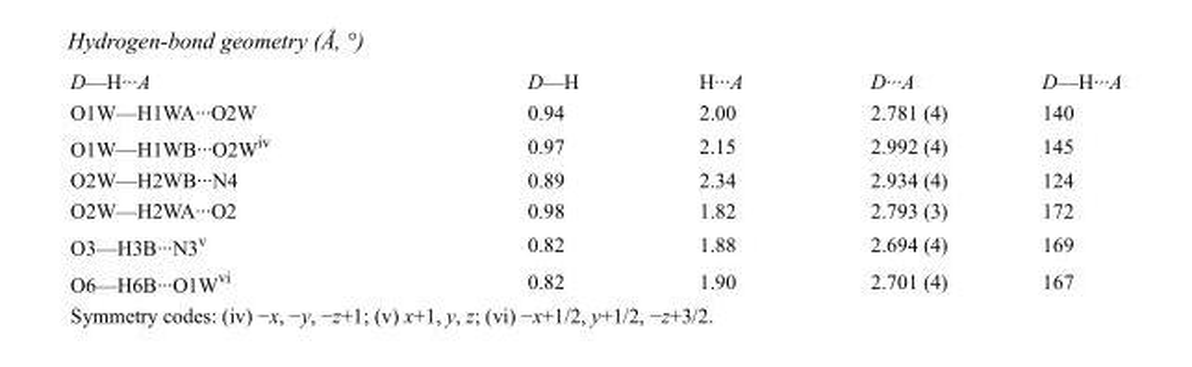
<table><tbody><tr><td>D—H···A</td><td>D—H</td><td>H···A</td><td>D···A</td><td>D—H···A</td></tr><tr><td>O1W—H1WA···O2W</td><td>0.94</td><td>2.00</td><td>2.781 (4)</td><td>140</td></tr><tr><td>O1W—H1WB···O2W<sup>iv</sup></td><td>0.97</td><td>2.15</td><td>2.992 (4)</td><td>145</td></tr><tr><td>O2W—H2WB···N4</td><td>0.89</td><td>2.34</td><td>2.934 (4)</td><td>124</td></tr><tr><td>O2W—H2WA···O2</td><td>0.98</td><td>1.82</td><td>2.793 (3)</td><td>172</td></tr><tr><td>O3—H3B···N3<sup>v</sup></td><td>0.82</td><td>1.88</td><td>2.694 (4)</td><td>169</td></tr><tr><td>O6—H6B···O1W<sup>vi</sup></td><td>0.82</td><td>1.90</td><td>2.701 (4)</td><td>167</td></tr></tbody></table>